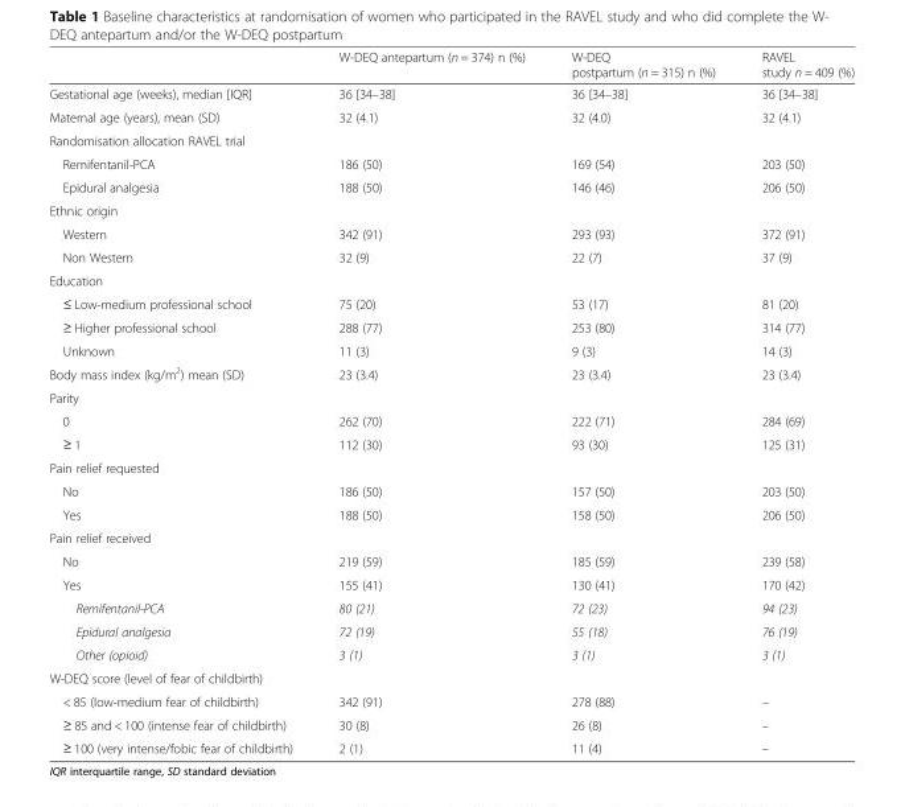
<table><thead><tr><td></td><td>W-DEQ antepartum (n = 374) n (%)</td><td>W-DEQ postpartum (n = 315) n (%)</td><td>RAVEL study n = 409 (%)</td></tr></thead><tbody><tr><td>Gestational age (weeks), median [IQR]</td><td>36 [34–38]</td><td>36 [34–38]</td><td>36 [34–38]</td></tr><tr><td>Maternal age (years), mean (SD)</td><td>32 (4.1)</td><td>32 (4.0)</td><td>32 (4.1)</td></tr><tr><td colspan="4">Randomisation allocation RAVEL trial</td></tr><tr><td>Remifentanil-PCA</td><td>186 (50)</td><td>169 (54)</td><td>203 (50)</td></tr><tr><td>Epidural analgesia</td><td>188 (50)</td><td>146 (46)</td><td>206 (50)</td></tr><tr><td colspan="4">Ethnic origin</td></tr><tr><td>Western</td><td>342 (91)</td><td>293 (93)</td><td>372 (91)</td></tr><tr><td>Non Western</td><td>32 (9)</td><td>22 (7)</td><td>37 (9)</td></tr><tr><td colspan="4">Education</td></tr><tr><td>≤ Low-medium professional school</td><td>75 (20)</td><td>53 (17)</td><td>81 (20)</td></tr><tr><td>≥ Higher professional school</td><td>288 (77)</td><td>253 (80)</td><td>314 (77)</td></tr><tr><td>Unknown</td><td>11 (3)</td><td>9 (3)</td><td>14 (3)</td></tr><tr><td>Body mass index (kg/m<sup>2</sup>) mean (SD)</td><td>23 (3.4)</td><td>23 (3.4)</td><td>23 (3.4)</td></tr><tr><td colspan="4">Parity</td></tr><tr><td>0</td><td>262 (70)</td><td>222 (71)</td><td>284 (69)</td></tr><tr><td>≥ 1</td><td>112 (30)</td><td>93 (30)</td><td>125 (31)</td></tr><tr><td colspan="4">Pain relief requested</td></tr><tr><td>No</td><td>186 (50)</td><td>157 (50)</td><td>203 (50)</td></tr><tr><td>Yes</td><td>188 (50)</td><td>158 (50)</td><td>206 (50)</td></tr><tr><td colspan="4">Pain relief received</td></tr><tr><td>No</td><td>219 (59)</td><td>185 (59)</td><td>239 (58)</td></tr><tr><td>Yes</td><td>155 (41)</td><td>130 (41)</td><td>170 (42)</td></tr><tr><td>Remifentanil-PCA</td><td>80 (21)</td><td>72 (23)</td><td>94 (23)</td></tr><tr><td>Epidural analgesia</td><td>72 (19)</td><td>55 (18)</td><td>76 (19)</td></tr><tr><td>Other (opioid)</td><td>3 (1)</td><td>3 (1)</td><td>3 (1)</td></tr><tr><td colspan="4">W-DEQ score (level of fear of childbirth)</td></tr><tr><td>&lt; 85 (low-medium fear of childbirth)</td><td>342 (91)</td><td>278 (88)</td><td>–</td></tr><tr><td>≥ 85 and &lt; 100 (intense fear of childbirth)</td><td>30 (8)</td><td>26 (8)</td><td>–</td></tr><tr><td>≥ 100 (very intense/fobic fear of childbirth)</td><td>2 (1)</td><td>11 (4)</td><td>–</td></tr></tbody></table>